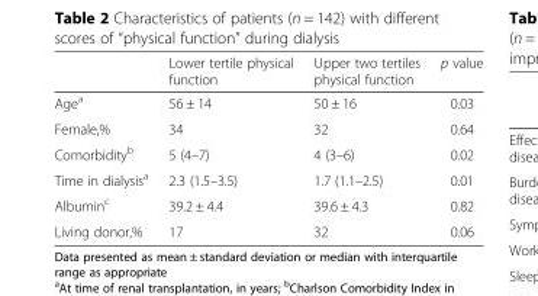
<table><thead><tr><td></td><td>Lower tertile physical function</td><td>Upper two tertiles physical function</td><td>p value</td></tr></thead><tbody><tr><td>Age<sup>a</sup></td><td>56 ± 14</td><td>50 ± 16</td><td>0.03</td></tr><tr><td>Female,%</td><td>34</td><td>32</td><td>0.64</td></tr><tr><td>Comorbidity<sup>b</sup></td><td>5 (4–7)</td><td>4 (3–6)</td><td>0.02</td></tr><tr><td>Time in dialysis<sup>a</sup></td><td>2.3 (1.5–3.5)</td><td>1.7 (1.1–2.5)</td><td>0.01</td></tr><tr><td>Albumin<sup>c</sup></td><td>39.2 ± 4.4</td><td>39.6 ± 4.3</td><td>0.82</td></tr><tr><td>Living donor,%</td><td>17</td><td>32</td><td>0.06</td></tr></tbody></table>